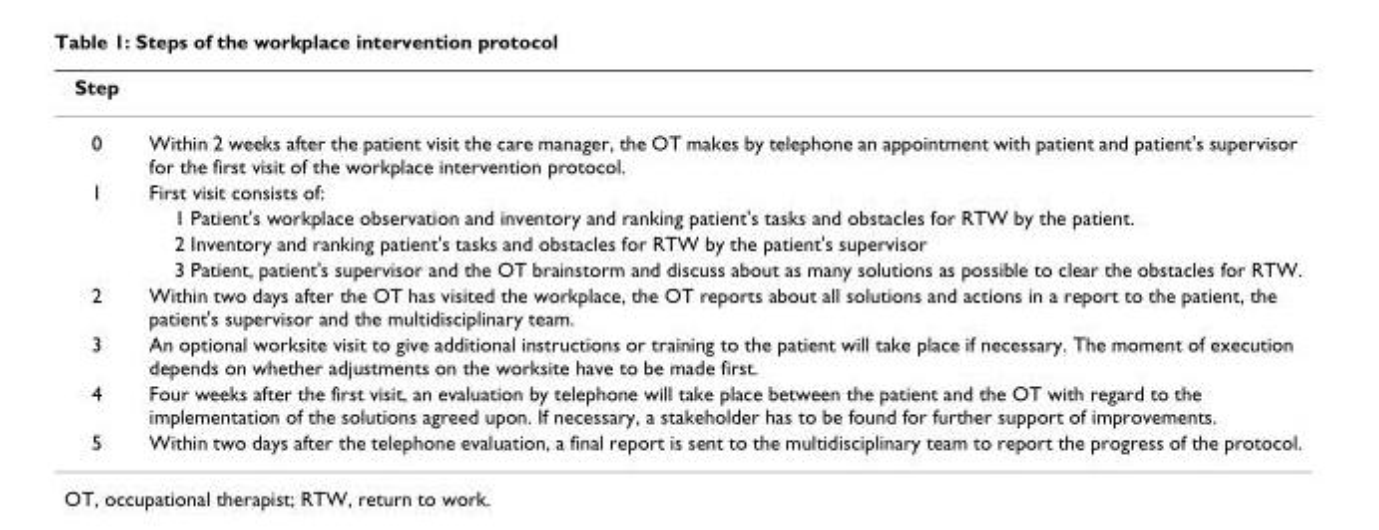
<table><thead><tr><td>Step</td><td></td></tr></thead><tbody><tr><td>0</td><td>Within 2 weeks after the patient visit the care manager, the OT makes by telephone an appointment with patient and patient&#x27;s supervisor for the first visit of the workplace intervention protocol.</td></tr><tr><td rowspan="4">1</td><td>First visit consists of:</td></tr><tr><td>1 Patient&#x27;s workplace observation and inventory and ranking patient&#x27;s tasks and obstacles for RTW by the patient.</td></tr><tr><td>2 Inventory and ranking patient&#x27;s tasks and obstacles for RTW by the patient&#x27;s supervisor</td></tr><tr><td>3 Patient, patient&#x27;s supervisor and the OT brainstorm and discuss about as many solutions as possible to clear the obstacles for RTW.</td></tr><tr><td>2</td><td>Within two days after the OT has visited the workplace, the OT reports about all solutions and actions in a report to the patient, the patient&#x27;s supervisor and the multidisciplinary team.</td></tr><tr><td>3</td><td>An optional worksite visit to give additional instructions or training to the patient will take place if necessary. The moment of execution depends on whether adjustments on the worksite have to be made first.</td></tr><tr><td>4</td><td>Four weeks after the first visit, an evaluation by telephone will take place between the patient and the OT with regard to the implementation of the solutions agreed upon. If necessary, a stakeholder has to be found for further support of improvements.</td></tr><tr><td>5</td><td>Within two days after the telephone evaluation, a final report is sent to the multidisciplinary team to report the progress of the protocol.</td></tr></tbody></table>